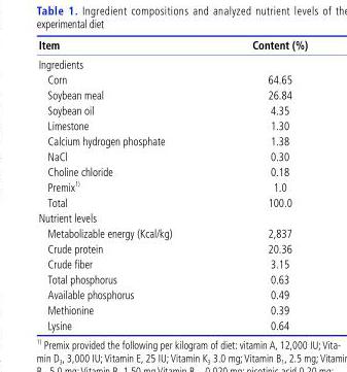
<table><thead><tr><td>Item</td><td>Content (%)</td></tr></thead><tbody><tr><td colspan="2">Ingredients</td></tr><tr><td>Corn</td><td>64.65</td></tr><tr><td>Soybean meal</td><td>26.84</td></tr><tr><td>Soybean oil</td><td>4.35</td></tr><tr><td>Limestone</td><td>1.30</td></tr><tr><td>Calcium hydrogen phosphate</td><td>1.38</td></tr><tr><td>NaCl</td><td>0.30</td></tr><tr><td>Choline chloride</td><td>0.18</td></tr><tr><td>Premix 1)</td><td>1.0</td></tr><tr><td>Total</td><td>100.0</td></tr><tr><td colspan="2">Nutrient levels</td></tr><tr><td>Metabolizable energy (Kcal/kg)</td><td>2,837</td></tr><tr><td>Crude protein</td><td>20.36</td></tr><tr><td>Crude fiber</td><td>3.15</td></tr><tr><td>Total phosphorus</td><td>0.63</td></tr><tr><td>Available phosphorus</td><td>0.49</td></tr><tr><td>Methionine</td><td>0.39</td></tr><tr><td>Lysine</td><td>0.64</td></tr></tbody></table>